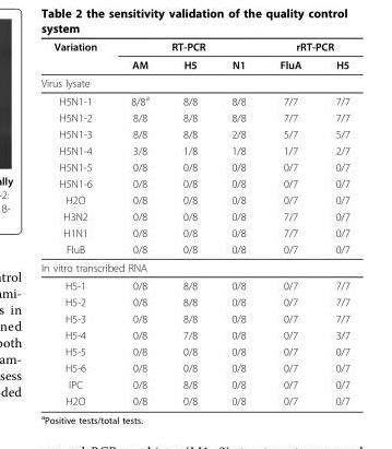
<table><thead><tr><td rowspan="2">Variation</td><td colspan="3">RT-PCR</td><td colspan="2">rRT-PCR</td></tr><tr><td>AM</td><td>H5</td><td>N1</td><td>FluA</td><td>H5</td></tr></thead><tbody><tr><td colspan="6">Virus lysate</td></tr><tr><td>H5N1-1</td><td>8/8<sup>a</sup></td><td>8/8</td><td>8/8</td><td>7/7</td><td>7/7</td></tr><tr><td>H5N1-2</td><td>8/8</td><td>8/8</td><td>8/8</td><td>7/7</td><td>7/7</td></tr><tr><td>H5N1-3</td><td>8/8</td><td>8/8</td><td>2/8</td><td>5/7</td><td>5/7</td></tr><tr><td>H5N1-4</td><td>3/8</td><td>1/8</td><td>1/8</td><td>1/7</td><td>2/7</td></tr><tr><td>H5N1-5</td><td>0/8</td><td>0/8</td><td>0/8</td><td>0/7</td><td>0/7</td></tr><tr><td>H5N1-6</td><td>0/8</td><td>0/8</td><td>0/8</td><td>0/7</td><td>0/7</td></tr><tr><td>H2O</td><td>0/8</td><td>0/8</td><td>0/8</td><td>0/7</td><td>0/7</td></tr><tr><td>H3N2</td><td>0/8</td><td>0/8</td><td>0/8</td><td>7/7</td><td>0/7</td></tr><tr><td>H1N1</td><td>0/8</td><td>0/8</td><td>0/8</td><td>7/7</td><td>0/7</td></tr><tr><td>FluB</td><td>0/8</td><td>0/8</td><td>0/8</td><td>0/7</td><td>0/7</td></tr><tr><td colspan="6">In vitro transcribed RNA</td></tr><tr><td>H5-1</td><td>0/8</td><td>8/8</td><td>0/8</td><td>0/7</td><td>7/7</td></tr><tr><td>H5-2</td><td>0/8</td><td>8/8</td><td>0/8</td><td>0/7</td><td>7/7</td></tr><tr><td>H5-3</td><td>0/8</td><td>8/8</td><td>0/8</td><td>0/7</td><td>7/7</td></tr><tr><td>H5-4</td><td>0/8</td><td>7/8</td><td>0/8</td><td>0/7</td><td>3/7</td></tr><tr><td>H5-5</td><td>0/8</td><td>0/8</td><td>0/8</td><td>0/7</td><td>0/7</td></tr><tr><td>H5-6</td><td>0/8</td><td>0/8</td><td>0/8</td><td>0/7</td><td>0/7</td></tr><tr><td>IPC</td><td>0/8</td><td>8/8</td><td>0/8</td><td>0/7</td><td>0/7</td></tr><tr><td>H2O</td><td>0/8</td><td>0/8</td><td>0/8</td><td>0/7</td><td>0/7</td></tr></tbody></table>